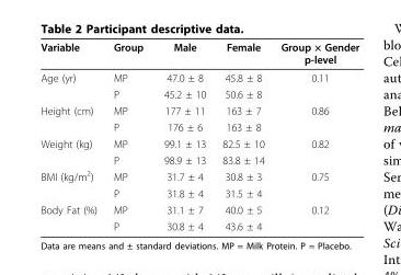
<table><thead><tr><td>Variable</td><td>Group</td><td>Male</td><td>Female</td><td>Group × Gender p-level</td></tr></thead><tbody><tr><td rowspan="2">Age (yr)</td><td>MP</td><td>47.0 ± 8</td><td>45.8 ± 8</td><td>0.11</td></tr><tr><td>P</td><td>45.2 ± 10</td><td>50.6 ± 8</td><td></td></tr><tr><td rowspan="2">Height (cm)</td><td>MP</td><td>177 ± 11</td><td>163 ± 7</td><td>0.86</td></tr><tr><td>P</td><td>176 ± 6</td><td>163 ± 8</td><td></td></tr><tr><td rowspan="2">Weight (kg)</td><td>MP</td><td>99.1 ± 13</td><td>82.5 ± 10</td><td>0.82</td></tr><tr><td>P</td><td>98.9 ± 13</td><td>83.8 ± 14</td><td></td></tr><tr><td rowspan="2">BMI (kg/m<sup>2</sup>)</td><td>MP</td><td>31.7 ± 4</td><td>30.8 ± 3</td><td>0.75</td></tr><tr><td>P</td><td>31.8 ± 4</td><td>31.5 ± 4</td><td></td></tr><tr><td rowspan="2">Body Fat (%)</td><td>MP</td><td>31.1 ± 7</td><td>40.0 ± 5</td><td>0.12</td></tr><tr><td>P</td><td>30.8 ± 4</td><td>43.6 ± 4</td><td></td></tr></tbody></table>